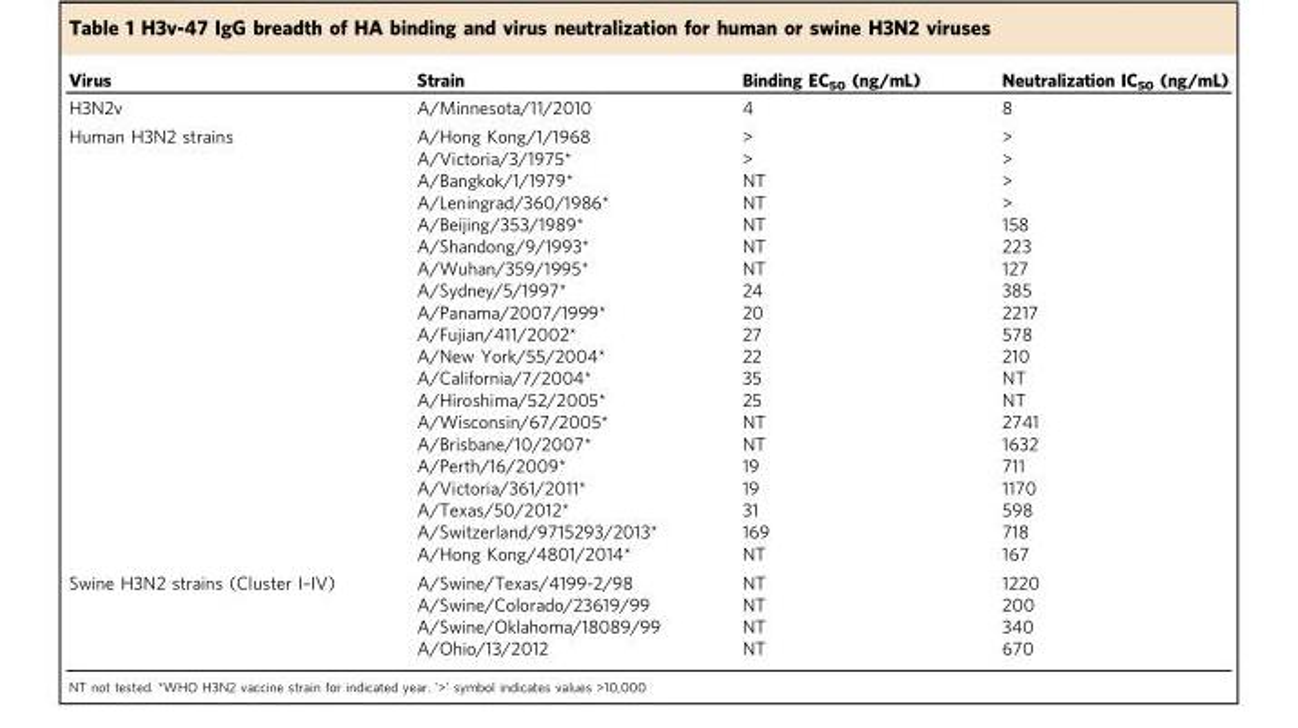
<table><thead><tr><td>Virus</td><td>Strain</td><td>Binding EC<sub>50</sub> (ng/mL)</td><td>Neutralization IC<sub>50</sub> (ng/mL)</td></tr></thead><tbody><tr><td>H3N2v</td><td>A/Minnesota/11/2010</td><td>4</td><td>8</td></tr><tr><td rowspan="20">Human H3N2 strains</td><td>A/Hong Kong/1/1968</td><td>&gt;</td><td>&gt;</td></tr><tr><td>A/Victoria/3/1975*</td><td>&gt;</td><td>&gt;</td></tr><tr><td>A/Bangkok/1/1979*</td><td>NT</td><td>&gt;</td></tr><tr><td>A/Leningrad/360/1986*</td><td>NT</td><td>&gt;</td></tr><tr><td>A/Beijing/353/1989*</td><td>NT</td><td>158</td></tr><tr><td>A/Shandong/9/1993*</td><td>NT</td><td>223</td></tr><tr><td>A/Wuhan/359/1995*</td><td>NT</td><td>127</td></tr><tr><td>A/Sydney/5/1997*</td><td>24</td><td>385</td></tr><tr><td>A/Panama/2007/1999*</td><td>20</td><td>2217</td></tr><tr><td>A/Fujian/411/2002*</td><td>27</td><td>578</td></tr><tr><td>A/New York/55/2004*</td><td>22</td><td>210</td></tr><tr><td>A/California/7/2004*</td><td>35</td><td>NT</td></tr><tr><td>A/Hiroshima/52/2005*</td><td>25</td><td>NT</td></tr><tr><td>A/Wisconsin/67/2005*</td><td>NT</td><td>2741</td></tr><tr><td>A/Brisbane/10/2007*</td><td>NT</td><td>1632</td></tr><tr><td>A/Perth/16/2009*</td><td>19</td><td>711</td></tr><tr><td>A/Victoria/361/2011*</td><td>19</td><td>1170</td></tr><tr><td>A/Texas/50/2012*</td><td>31</td><td>598</td></tr><tr><td>A/Switzerland/9715293/2013*</td><td>169</td><td>718</td></tr><tr><td>A/Hong Kong/4801/2014*</td><td>NT</td><td>167</td></tr><tr><td rowspan="4">Swine H3N2 strains (Cluster I–IV)</td><td>A/Swine/Texas/4199-2/98</td><td>NT</td><td>1220</td></tr><tr><td>A/Swine/Colorado/23619/99</td><td>NT</td><td>200</td></tr><tr><td>A/Swine/Oklahoma/18089/99</td><td>NT</td><td>340</td></tr><tr><td>A/Ohio/13/2012</td><td>NT</td><td>670</td></tr></tbody></table>